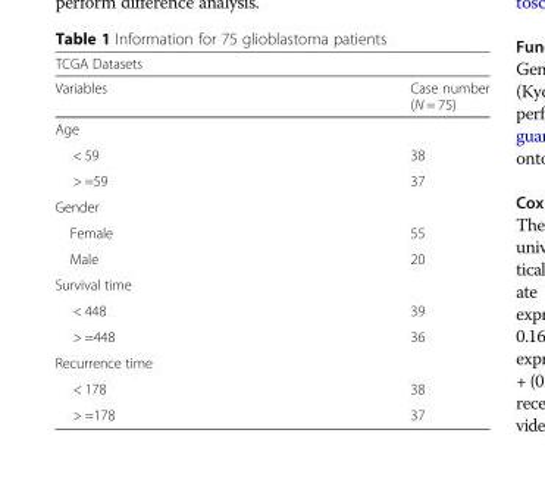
<table><thead><tr><td colspan="2">TCGA Datasets</td></tr><tr><td>Variables</td><td>Case number (N = 75)</td></tr></thead><tbody><tr><td colspan="2">Age</td></tr><tr><td>&lt; 59</td><td>38</td></tr><tr><td>&gt; =59</td><td>37</td></tr><tr><td colspan="2">Gender</td></tr><tr><td>Female</td><td>55</td></tr><tr><td>Male</td><td>20</td></tr><tr><td colspan="2">Survival time</td></tr><tr><td>&lt; 448</td><td>39</td></tr><tr><td>&gt; =448</td><td>36</td></tr><tr><td colspan="2">Recurrence time</td></tr><tr><td>&lt; 178</td><td>38</td></tr><tr><td>&gt; =178</td><td>37</td></tr></tbody></table>